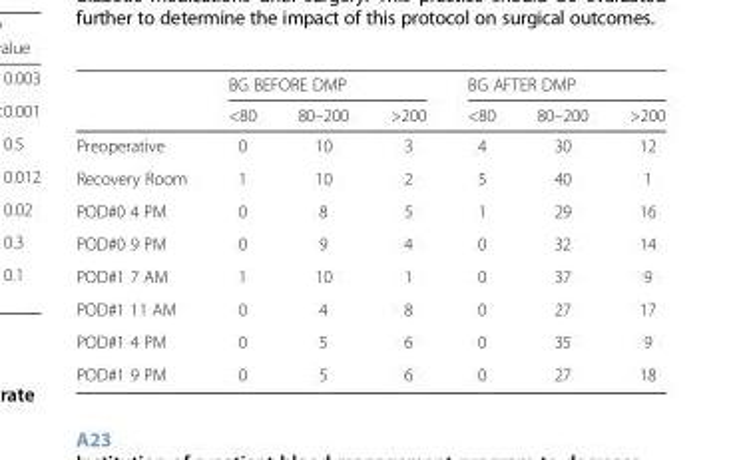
<table><thead><tr><td rowspan="2"></td><td colspan="3">BG BEFORE DMP</td><td colspan="3">BG AFTER DMP</td></tr><tr><td>&lt;80</td><td>80–200</td><td>&gt;200</td><td>&lt;80</td><td>80–200</td><td>&gt;200</td></tr></thead><tbody><tr><td>Preoperative</td><td>0</td><td>10</td><td>3</td><td>4</td><td>30</td><td>12</td></tr><tr><td>Recovery Room</td><td>1</td><td>10</td><td>2</td><td>5</td><td>40</td><td>1</td></tr><tr><td>POD#0 4 PM</td><td>0</td><td>8</td><td>5</td><td>1</td><td>29</td><td>16</td></tr><tr><td>POD#0 9 PM</td><td>0</td><td>9</td><td>4</td><td>0</td><td>32</td><td>14</td></tr><tr><td>POD#1 7 AM</td><td>1</td><td>10</td><td>1</td><td>0</td><td>37</td><td>9</td></tr><tr><td>POD#1 11 AM</td><td>0</td><td>4</td><td>8</td><td>0</td><td>27</td><td>17</td></tr><tr><td>POD#1 4 PM</td><td>0</td><td>5</td><td>6</td><td>0</td><td>35</td><td>9</td></tr><tr><td>POD#1 9 PM</td><td>0</td><td>5</td><td>6</td><td>0</td><td>27</td><td>18</td></tr></tbody></table>